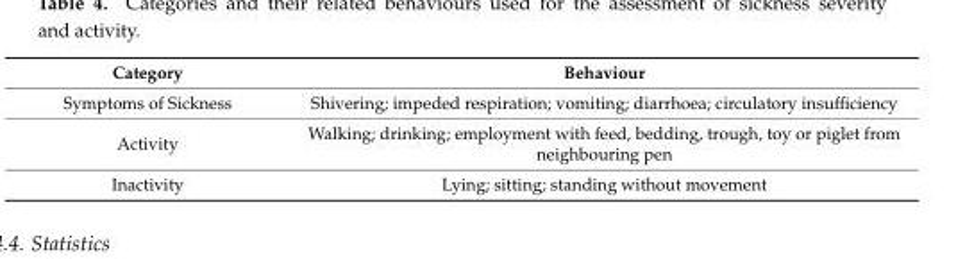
<table><thead><tr><td>Category</td><td>Behaviour</td></tr></thead><tbody><tr><td>Symptoms of Sickness</td><td>Shivering; impeded respiration; vomiting; diarrhoea; circulatory insufficiency</td></tr><tr><td>Activity</td><td>Walking; drinking; employment with feed, bedding, trough, toy or piglet from neighbouring pen</td></tr><tr><td>Inactivity</td><td>Lying; sitting; standing without movement</td></tr></tbody></table>